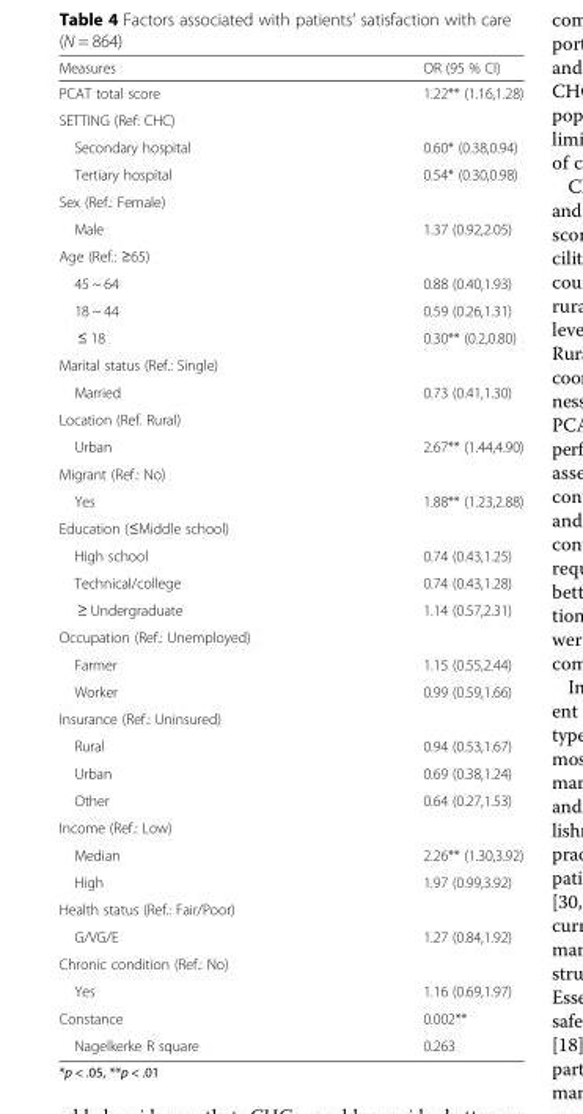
<table><thead><tr><td>Measures</td><td>OR (95 % CI)</td></tr></thead><tbody><tr><td>PCAT total score</td><td>1.22** (1.16,1.28)</td></tr><tr><td colspan="2">SETTING (Ref: CHC)</td></tr><tr><td>Secondary hospital</td><td>0.60* (0.38,0.94)</td></tr><tr><td>Tertiary hospital</td><td>0.54* (0.30,0.98)</td></tr><tr><td colspan="2">Sex (Ref.: Female)</td></tr><tr><td>Male</td><td>1.37 (0.92,2.05)</td></tr><tr><td colspan="2">Age (Ref.: ≥65)</td></tr><tr><td>45 ~ 64</td><td>0.88 (0.40,1.93)</td></tr><tr><td>18 ~ 44</td><td>0.59 (0.26,1.31)</td></tr><tr><td>≤ 18</td><td>0.30** (0.2,0.80)</td></tr><tr><td colspan="2">Marital status (Ref.: Single)</td></tr><tr><td>Married</td><td>0.73 (0.41,1.30)</td></tr><tr><td colspan="2">Location (Ref. Rural)</td></tr><tr><td>Urban</td><td>2.67** (1.44,4.90)</td></tr><tr><td colspan="2">Migrant (Ref.: No)</td></tr><tr><td>Yes</td><td>1.88** (1.23,2.88)</td></tr><tr><td colspan="2">Education (≤Middle school)</td></tr><tr><td>High school</td><td>0.74 (0.43,1.25)</td></tr><tr><td>Technical/college</td><td>0.74 (0.43,1.28)</td></tr><tr><td>≥ Undergraduate</td><td>1.14 (0.57,2.31)</td></tr><tr><td colspan="2">Occupation (Ref.: Unemployed)</td></tr><tr><td>Farmer</td><td>1.15 (0.55,2.44)</td></tr><tr><td>Worker</td><td>0.99 (0.59,1.66)</td></tr><tr><td colspan="2">Insurance (Ref.: Uninsured)</td></tr><tr><td>Rural</td><td>0.94 (0.53,1.67)</td></tr><tr><td>Urban</td><td>0.69 (0.38,1.24)</td></tr><tr><td>Other</td><td>0.64 (0.27,1.53)</td></tr><tr><td colspan="2">Income (Ref.: Low)</td></tr><tr><td>Median</td><td>2.26** (1.30,3.92)</td></tr><tr><td>High</td><td>1.97 (0.99,3.92)</td></tr><tr><td colspan="2">Health status (Ref.: Fair/Poor)</td></tr><tr><td>G/VG/E</td><td>1.27 (0.84,1.92)</td></tr><tr><td colspan="2">Chronic condition (Ref.: No)</td></tr><tr><td>Yes</td><td>1.16 (0.69,1.97)</td></tr><tr><td>Constance</td><td>0.002**</td></tr><tr><td>Nagelkerke R square</td><td>0.263</td></tr></tbody></table>